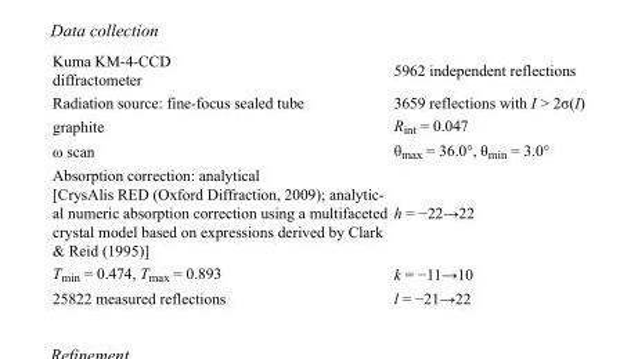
<table><tbody><tr><td>Kuma KM-4-CCD diffractometer</td><td>5962 independent reflections</td></tr><tr><td>Radiation source: fine-focus sealed tube</td><td>3659 reflections with I &gt; 2σ(I)</td></tr><tr><td>graphite</td><td>R<sub>int</sub> = 0.047</td></tr><tr><td>ω scan</td><td>θ<sub>max</sub> = 36.0°, θ<sub>min</sub> = 3.0°</td></tr><tr><td>Absorption correction: analytical [CrysAlis RED (Oxford Diffraction, 2009); analytic- al numeric absorption correction using a multifaceted crystal model based on expressions derived by Clark &amp; Reid (1995)]</td><td>h = −22→22</td></tr><tr><td>T<sub>min</sub> = 0.474, T<sub>max</sub> = 0.893</td><td>k = −11→10</td></tr><tr><td>25822 measured reflections</td><td>l = −21→22</td></tr></tbody></table>